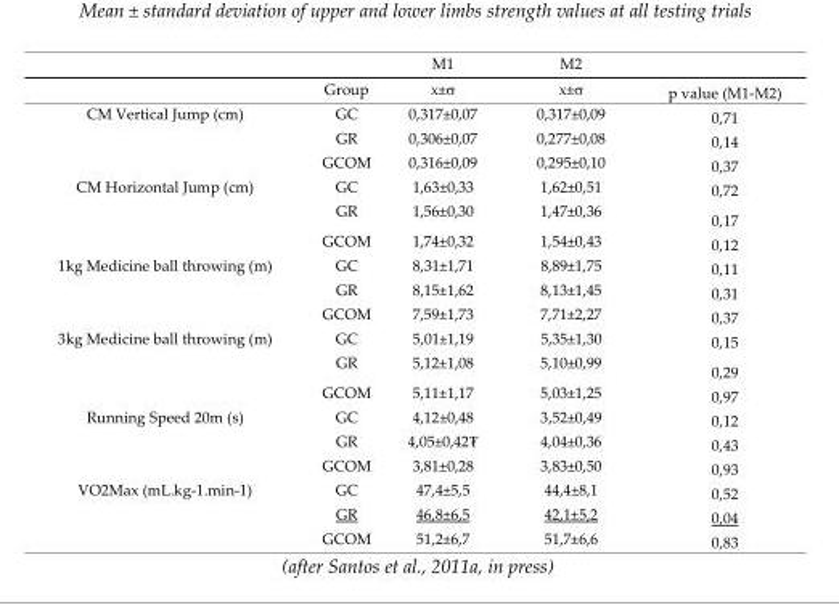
<table><thead><tr><td rowspan="2"></td><td rowspan="2">Group</td><td rowspan="2">M1 х±</td><td rowspan="2">M2 х±</td><td rowspan="2">p value (M1-M2)</td></tr><tr></tr></thead><tbody><tr><td rowspan="3">CM Vertical Jump (cm)</td><td>GC</td><td>0,317±0,07</td><td>0,317±0,09</td><td>0,71</td></tr><tr><td>GR</td><td>0,306±0,07</td><td>0,277±0,08</td><td>0,14</td></tr><tr><td>GCOM</td><td>0,316±0,09</td><td>0,295±0,10</td><td>0,37</td></tr><tr><td rowspan="3">CM Horizontal Jump (cm)</td><td>GC</td><td>1,63±0,33</td><td>1,62±0,51</td><td>0,72</td></tr><tr><td>GR</td><td>1,56±0,30</td><td>1,47±0,36</td><td>0,17</td></tr><tr><td>GCOM</td><td>1,74±0,32</td><td>1,54±0,43</td><td>0,12</td></tr><tr><td rowspan="3">1kg Medicine ball throwing (m)</td><td>GC</td><td>8,31±1,71</td><td>8,89±1,75</td><td>0,11</td></tr><tr><td>GR</td><td>8,15±1,62</td><td>8,13±1,45</td><td>0,31</td></tr><tr><td>GCOM</td><td>7,59±1,73</td><td>7,71±2,27</td><td>0,37</td></tr><tr><td rowspan="3">3kg Medicine ball throwing (m)</td><td>GC</td><td>5,01±1,19</td><td>5,35±1,30</td><td>0,15</td></tr><tr><td>GR</td><td>5,12±1,08</td><td>5,10±0,99</td><td>0,29</td></tr><tr><td>GCOM</td><td>5,11±1,17</td><td>5,03±1,25</td><td>0,97</td></tr><tr><td rowspan="3">Running Speed 20m (s)</td><td>GC</td><td>4,12±0,48</td><td>3,52±0,49</td><td>0,12</td></tr><tr><td>GR</td><td>4,05±0,42₮</td><td>4,04±0,36</td><td>0,43</td></tr><tr><td>GCOM</td><td>3,81±0,28</td><td>3,83±0,50</td><td>0,93</td></tr><tr><td rowspan="3">VO<sub>2</sub>Max (mL.kg<sup>-1</sup>.min<sup>-1</sup>)</td><td>GC</td><td>47,4±5,5</td><td>44,4±8,1</td><td>0,52</td></tr><tr><td>GR</td><td>46,8±6,5</td><td>42,1±5,2</td><td>0,04</td></tr><tr><td>GCOM</td><td>51,2±6,7</td><td>51,7±6,6</td><td>0,83</td></tr></tbody></table>